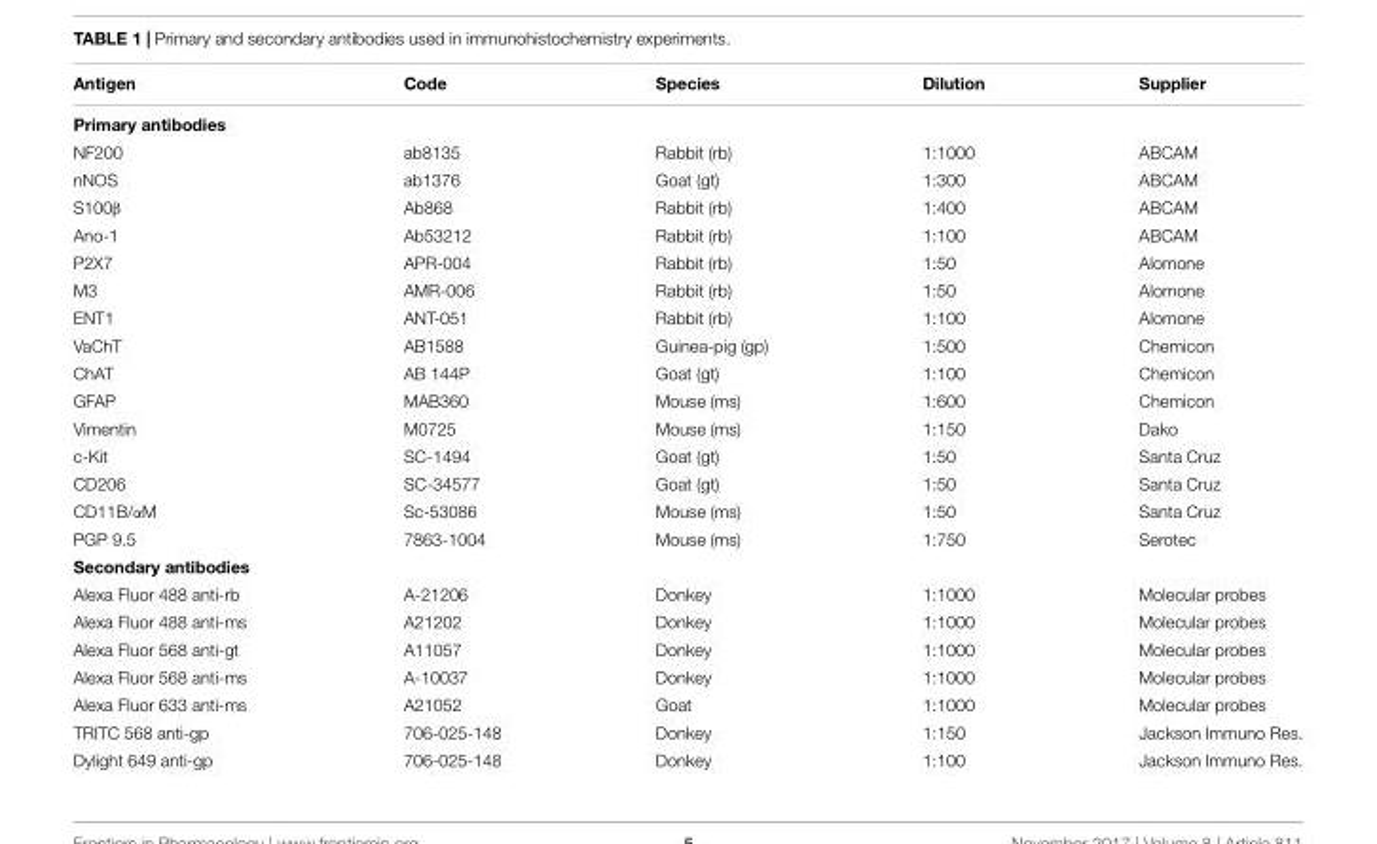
<table><thead><tr><td>Antigen</td><td>Code</td><td>Species</td><td>Dilution</td><td>Supplier</td></tr></thead><tbody><tr><td colspan="5">Primary antibodies</td></tr><tr><td>NF200</td><td>ab8135</td><td>Rabbit (rb)</td><td>1:1000</td><td>ABCAM</td></tr><tr><td>nNOS</td><td>ab1376</td><td>Goat (gt)</td><td>1:300</td><td>ABCAM</td></tr><tr><td>S100β</td><td>Ab868</td><td>Rabbit (rb)</td><td>1:400</td><td>ABCAM</td></tr><tr><td>Ano-1</td><td>Ab53212</td><td>Rabbit (rb)</td><td>1:100</td><td>ABCAM</td></tr><tr><td>P2X7</td><td>APR-004</td><td>Rabbit (rb)</td><td>1:50</td><td>Alomone</td></tr><tr><td>M3</td><td>AMR-006</td><td>Rabbit (rb)</td><td>1:50</td><td>Alomone</td></tr><tr><td>ENT1</td><td>ANT-051</td><td>Rabbit (rb)</td><td>1:100</td><td>Alomone</td></tr><tr><td>VaChT</td><td>AB1588</td><td>Guinea-pig (gp)</td><td>1:500</td><td>Chemicon</td></tr><tr><td>ChAT</td><td>AB 144P</td><td>Goat (gt)</td><td>1:100</td><td>Chemicon</td></tr><tr><td>GFAP</td><td>MAB360</td><td>Mouse (ms)</td><td>1:600</td><td>Chemicon</td></tr><tr><td>Vimentin</td><td>M0725</td><td>Mouse (ms)</td><td>1:150</td><td>Dako</td></tr><tr><td>c-Kit</td><td>SC-1494</td><td>Goat (gt)</td><td>1:50</td><td>Santa Cruz</td></tr><tr><td>CD206</td><td>SC-34577</td><td>Goat (gt)</td><td>1:50</td><td>Santa Cruz</td></tr><tr><td>CD11B/αM</td><td>Sc-53086</td><td>Mouse (ms)</td><td>1:50</td><td>Santa Cruz</td></tr><tr><td>PGP 9.5</td><td>7863-1004</td><td>Mouse (ms)</td><td>1:750</td><td>Serotec</td></tr><tr><td colspan="5">Secondary antibodies</td></tr><tr><td>Alexa Fluor 488 anti-rb</td><td>A-21206</td><td>Donkey</td><td>1:1000</td><td>Molecular probes</td></tr><tr><td>Alexa Fluor 488 anti-ms</td><td>A21202</td><td>Donkey</td><td>1:1000</td><td>Molecular probes</td></tr><tr><td>Alexa Fluor 568 anti-gt</td><td>A11057</td><td>Donkey</td><td>1:1000</td><td>Molecular probes</td></tr><tr><td>Alexa Fluor 568 anti-ms</td><td>A-10037</td><td>Donkey</td><td>1:1000</td><td>Molecular probes</td></tr><tr><td>Alexa Fluor 633 anti-ms</td><td>A21052</td><td>Goat</td><td>1:1000</td><td>Molecular probes</td></tr><tr><td>TRITC 568 anti-gp</td><td>706-025-148</td><td>Donkey</td><td>1:150</td><td>Jackson Immuno Res.</td></tr><tr><td>Dylight 649 anti-gp</td><td>706-025-148</td><td>Donkey</td><td>1:100</td><td>Jackson Immuno Res.</td></tr></tbody></table>